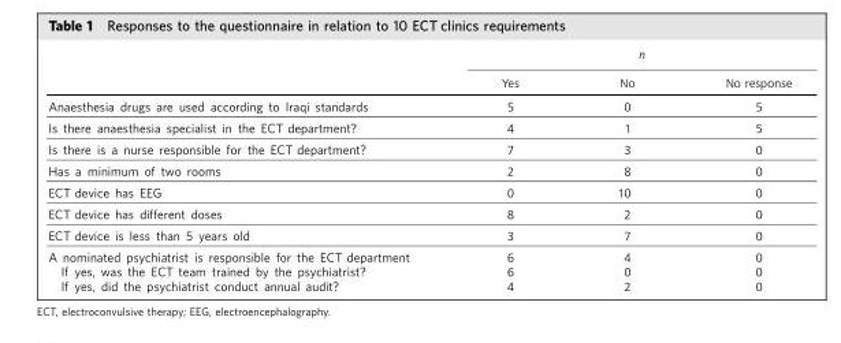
<table><thead><tr><td rowspan="2"></td><td colspan="3">n</td></tr><tr><td>Yes</td><td>No</td><td>No response</td></tr></thead><tbody><tr><td>Anaesthesia drugs are used according to Iraqi standards</td><td>5</td><td>0</td><td>5</td></tr><tr><td>Is there anaesthesia specialist in the ECT department?</td><td>4</td><td>1</td><td>5</td></tr><tr><td>Is there is a nurse responsible for the ECT department?</td><td>7</td><td>3</td><td>0</td></tr><tr><td>Has a minimum of two rooms</td><td>2</td><td>8</td><td>0</td></tr><tr><td>ECT device has EEG</td><td>0</td><td>10</td><td>0</td></tr><tr><td>ECT device has different doses</td><td>8</td><td>2</td><td>0</td></tr><tr><td>ECT device is less than 5 years old</td><td>3</td><td>7</td><td>0</td></tr><tr><td>A nominated psychiatrist is responsible for the ECT department</td><td>6</td><td>4</td><td>0</td></tr><tr><td>If yes, was the ECT team trained by the psychiatrist?</td><td>6</td><td>0</td><td>0</td></tr><tr><td>If yes, did the psychiatrist conduct annual audit?</td><td>4</td><td>2</td><td>0</td></tr></tbody></table>